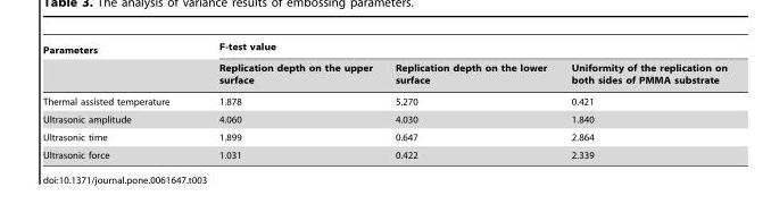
<table><thead><tr><td rowspan="2">Parameters</td><td colspan="3">F-test value</td></tr><tr><td>Replication depth on the upper surface</td><td>Replication depth on the lower surface</td><td>Uniformity of the replication on both sides of PMMA substrate</td></tr></thead><tbody><tr><td>Thermal assisted temperature</td><td>1.878</td><td>5.270</td><td>0.421</td></tr><tr><td>Ultrasonic amplitude</td><td>4.060</td><td>4.030</td><td>1.840</td></tr><tr><td>Ultrasonic time</td><td>1.899</td><td>0.647</td><td>2.864</td></tr><tr><td>Ultrasonic force</td><td>1.031</td><td>0.422</td><td>2.339</td></tr></tbody></table>